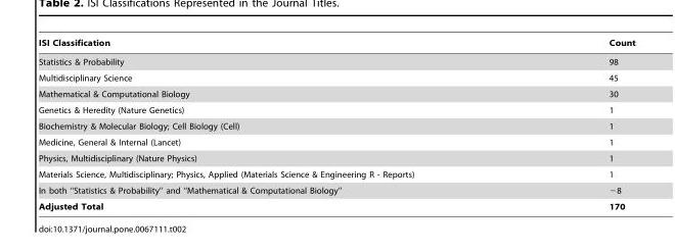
<table><thead><tr><td>ISI Classification</td><td>Count</td></tr></thead><tbody><tr><td>Statistics &amp; Probability</td><td>98</td></tr><tr><td>Multidisciplinary Science</td><td>45</td></tr><tr><td>Mathematical &amp; Computational Biology</td><td>30</td></tr><tr><td>Genetics &amp; Heredity (Nature Genetics)</td><td>1</td></tr><tr><td>Biochemistry &amp; Molecular Biology; Cell Biology (Cell)</td><td>1</td></tr><tr><td>Medicine, General &amp; Internal (Lancet)</td><td>1</td></tr><tr><td>Physics, Multidisciplinary (Nature Physics)</td><td>1</td></tr><tr><td>Materials Science, Multidisciplinary; Physics, Applied (Materials Science &amp; Engineering R - Reports)</td><td>1</td></tr><tr><td>In both ‘‘Statistics &amp; Probability’’ and ‘‘Mathematical &amp; Computational Biology’’</td><td>−8</td></tr><tr><td>Adjusted Total</td><td>170</td></tr></tbody></table>